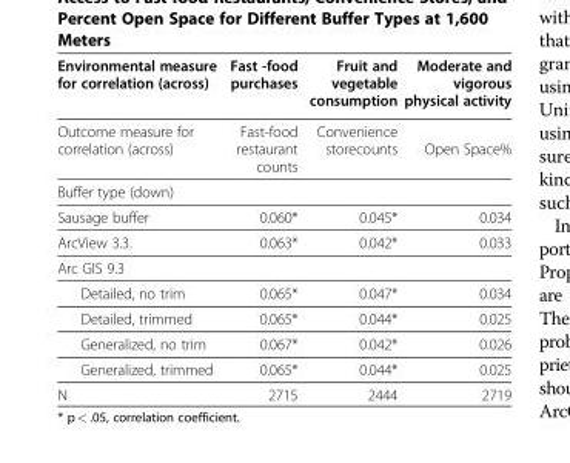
<table><thead><tr><td>Environmental measure for correlation (across)</td><td>Fast -food purchases</td><td>Fruit and vegetable consumption</td><td>Moderate and vigorous physical activity</td></tr></thead><tbody><tr><td>Outcome measure for correlation (across)</td><td>Fast-food restaurant counts</td><td>Convenience storecounts</td><td>Open Space%</td></tr><tr><td colspan="4">Buffer type (down)</td></tr><tr><td>Sausage buffer</td><td>0.060*</td><td>0.045*</td><td>0.034</td></tr><tr><td>ArcView 3.3.</td><td>0.063*</td><td>0.042*</td><td>0.033</td></tr><tr><td colspan="4">Arc GIS 9.3</td></tr><tr><td>Detailed, no trim</td><td>0.065*</td><td>0.047*</td><td>0.034</td></tr><tr><td>Detailed, trimmed</td><td>0.065*</td><td>0.044*</td><td>0.025</td></tr><tr><td>Generalized, no trim</td><td>0.067*</td><td>0.042*</td><td>0.026</td></tr><tr><td>Generalized, trimmed</td><td>0.065*</td><td>0.044*</td><td>0.025</td></tr><tr><td>N</td><td>2715</td><td>2444</td><td>2719</td></tr></tbody></table>